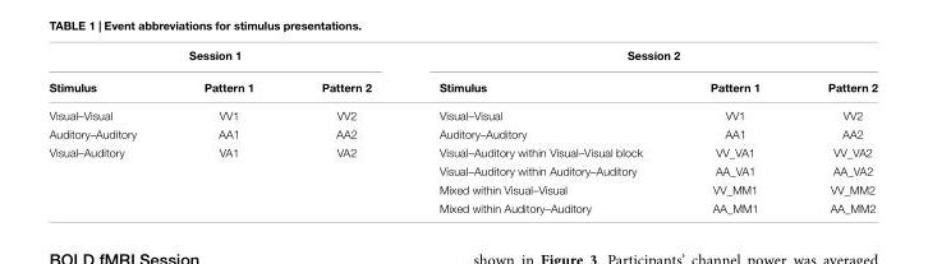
<table><thead><tr><td colspan="3">Session 1</td><td colspan="3">Session 2</td></tr><tr><td>Stimulus</td><td>Pattern 1</td><td>Pattern 2</td><td>Stimulus</td><td>Pattern 1</td><td>Pattern 2</td></tr></thead><tbody><tr><td>Visual–Visual</td><td>VV1</td><td>VV2</td><td>Visual–Visual</td><td>VV1</td><td>VV2</td></tr><tr><td>Auditory–Auditory</td><td>AA1</td><td>AA2</td><td>Auditory–Auditory</td><td>AA1</td><td>AA2</td></tr><tr><td rowspan="4">Visual–Auditory</td><td>VA1</td><td>VA2</td><td>Visual–Auditory within Visual–Visual block</td><td>VV_VA1</td><td>VV_VA2</td></tr><tr><td></td><td></td><td>Visual–Auditory within Auditory–Auditory</td><td>AA_VA1</td><td>AA_VA2</td></tr><tr><td></td><td></td><td>Mixed within Visual–Visual</td><td>VV_MM1</td><td>VV_MM2</td></tr><tr><td></td><td></td><td>Mixed within Auditory–Auditory</td><td>AA_MM1</td><td>AA_MM2</td></tr></tbody></table>